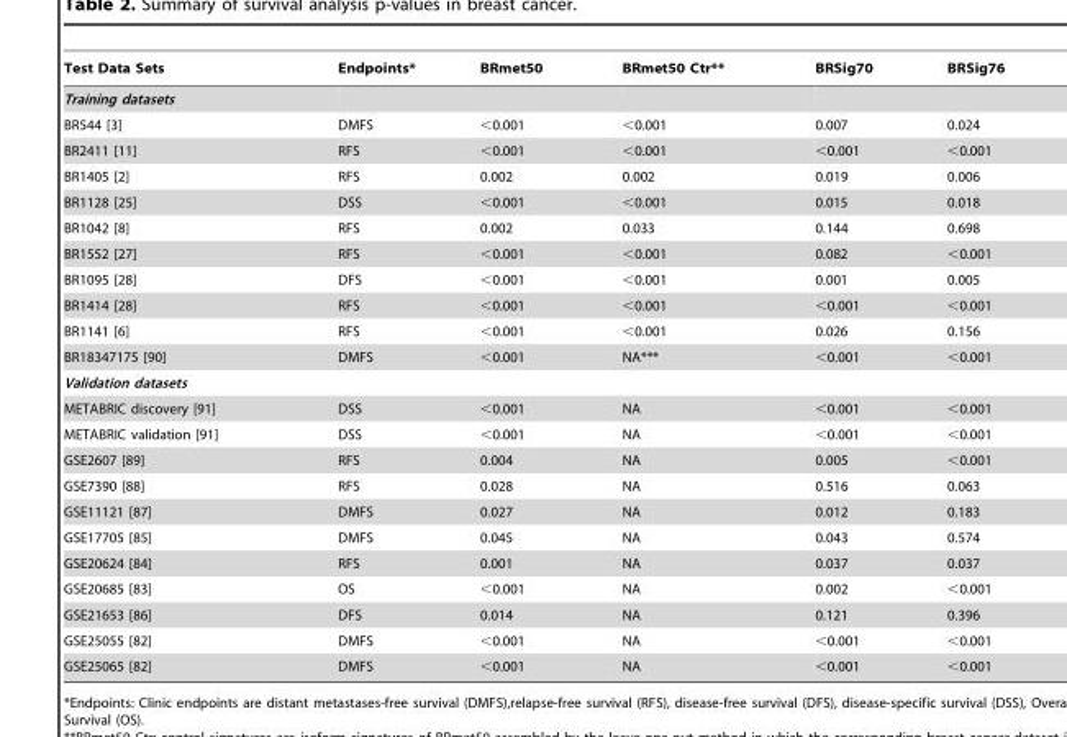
<table><thead><tr><td>Test Data Sets</td><td>Endpoints*</td><td>BRmet50</td><td>BRmet50 Ctr**</td><td>BRSig70</td><td>BRSig76</td></tr></thead><tbody><tr><td colspan="6">Training datasets</td></tr><tr><td>BR544 [3]</td><td>DMFS</td><td>&lt;0.001</td><td>&lt;0.001</td><td>0.007</td><td>0.024</td></tr><tr><td>BR2411 [11]</td><td>RFS</td><td>&lt;0.001</td><td>&lt;0.001</td><td>&lt;0.001</td><td>&lt;0.001</td></tr><tr><td>BR1405 [2]</td><td>RFS</td><td>0.002</td><td>0.002</td><td>0.019</td><td>0.006</td></tr><tr><td>BR1128 [25]</td><td>DSS</td><td>&lt;0.001</td><td>&lt;0.001</td><td>0.015</td><td>0.018</td></tr><tr><td>BR1042 [8]</td><td>RFS</td><td>0.002</td><td>0.033</td><td>0.144</td><td>0.698</td></tr><tr><td>BR1552 [27]</td><td>RFS</td><td>&lt;0.001</td><td>&lt;0.001</td><td>0.082</td><td>&lt;0.001</td></tr><tr><td>BR1095 [28]</td><td>DFS</td><td>&lt;0.001</td><td>&lt;0.001</td><td>0.001</td><td>0.005</td></tr><tr><td>BR1414 [28]</td><td>RFS</td><td>&lt;0.001</td><td>&lt;0.001</td><td>&lt;0.001</td><td>&lt;0.001</td></tr><tr><td>BR1141 [6]</td><td>RFS</td><td>&lt;0.001</td><td>&lt;0.001</td><td>0.026</td><td>0.156</td></tr><tr><td>BR18347175 [90]</td><td>DMFS</td><td>&lt;0.001</td><td>NA***</td><td>&lt;0.001</td><td>&lt;0.001</td></tr><tr><td colspan="6">Validation datasets</td></tr><tr><td>METABRIC discovery [91]</td><td>DSS</td><td>&lt;0.001</td><td>NA</td><td>&lt;0.001</td><td>&lt;0.001</td></tr><tr><td>METABRIC validation [91]</td><td>DSS</td><td>&lt;0.001</td><td>NA</td><td>&lt;0.001</td><td>&lt;0.001</td></tr><tr><td>GSE2607 [89]</td><td>RFS</td><td>0.004</td><td>NA</td><td>0.005</td><td>&lt;0.001</td></tr><tr><td>GSE7390 [88]</td><td>RFS</td><td>0.028</td><td>NA</td><td>0.516</td><td>0.063</td></tr><tr><td>GSE11121 [87]</td><td>DMFS</td><td>0.027</td><td>NA</td><td>0.012</td><td>0.183</td></tr><tr><td>GSE17705 [85]</td><td>DMFS</td><td>0.045</td><td>NA</td><td>0.043</td><td>0.574</td></tr><tr><td>GSE20624 [84]</td><td>RFS</td><td>0.001</td><td>NA</td><td>0.037</td><td>0.037</td></tr><tr><td>GSE20685 [83]</td><td>OS</td><td>&lt;0.001</td><td>NA</td><td>0.002</td><td>&lt;0.001</td></tr><tr><td>GSE21653 [86]</td><td>DFS</td><td>0.014</td><td>NA</td><td>0.121</td><td>0.396</td></tr><tr><td>GSE25055 [82]</td><td>DMFS</td><td>&lt;0.001</td><td>NA</td><td>&lt;0.001</td><td>&lt;0.001</td></tr><tr><td>GSE25065 [82]</td><td>DMFS</td><td>&lt;0.001</td><td>NA</td><td>&lt;0.001</td><td>&lt;0.001</td></tr></tbody></table>